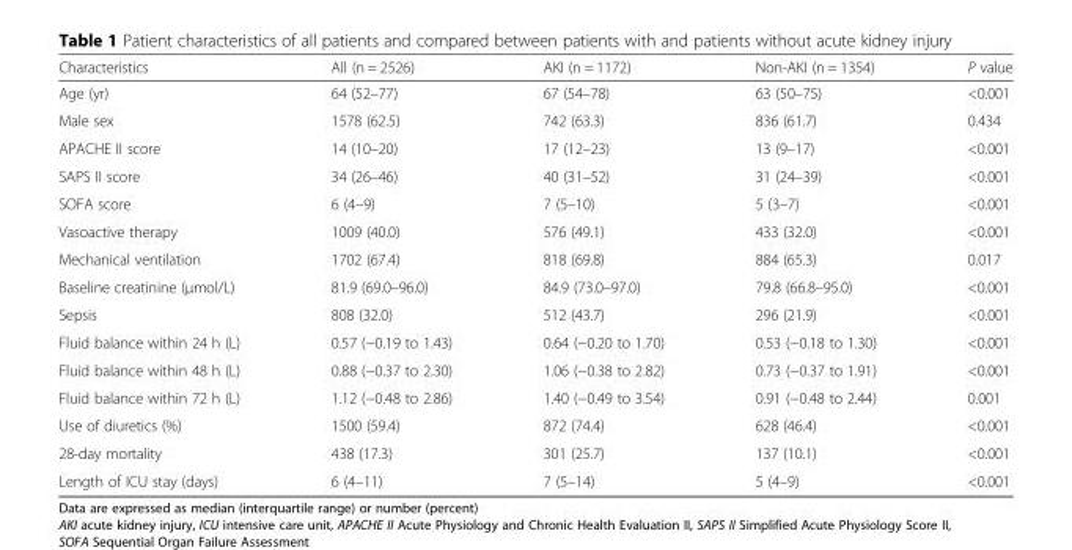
<table><thead><tr><td>Characteristics</td><td>All (n = 2526)</td><td>AKI (n = 1172)</td><td>Non-AKI (n = 1354)</td><td>P value</td></tr></thead><tbody><tr><td>Age (yr)</td><td>64 (52–77)</td><td>67 (54–78)</td><td>63 (50–75)</td><td>&lt;0.001</td></tr><tr><td>Male sex</td><td>1578 (62.5)</td><td>742 (63.3)</td><td>836 (61.7)</td><td>0.434</td></tr><tr><td>APACHE II score</td><td>14 (10–20)</td><td>17 (12–23)</td><td>13 (9–17)</td><td>&lt;0.001</td></tr><tr><td>SAPS II score</td><td>34 (26–46)</td><td>40 (31–52)</td><td>31 (24–39)</td><td>&lt;0.001</td></tr><tr><td>SOFA score</td><td>6 (4–9)</td><td>7 (5–10)</td><td>5 (3–7)</td><td>&lt;0.001</td></tr><tr><td>Vasoactive therapy</td><td>1009 (40.0)</td><td>576 (49.1)</td><td>433 (32.0)</td><td>&lt;0.001</td></tr><tr><td>Mechanical ventilation</td><td>1702 (67.4)</td><td>818 (69.8)</td><td>884 (65.3)</td><td>0.017</td></tr><tr><td>Baseline creatinine (μmol/L)</td><td>81.9 (69.0–96.0)</td><td>84.9 (73.0–97.0)</td><td>79.8 (66.8–95.0)</td><td>&lt;0.001</td></tr><tr><td>Sepsis</td><td>808 (32.0)</td><td>512 (43.7)</td><td>296 (21.9)</td><td>&lt;0.001</td></tr><tr><td>Fluid balance within 24 h (L)</td><td>0.57 (−0.19 to 1.43)</td><td>0.64 (−0.20 to 1.70)</td><td>0.53 (−0.18 to 1.30)</td><td>&lt;0.001</td></tr><tr><td>Fluid balance within 48 h (L)</td><td>0.88 (−0.37 to 2.30)</td><td>1.06 (−0.38 to 2.82)</td><td>0.73 (−0.37 to 1.91)</td><td>&lt;0.001</td></tr><tr><td>Fluid balance within 72 h (L)</td><td>1.12 (−0.48 to 2.86)</td><td>1.40 (−0.49 to 3.54)</td><td>0.91 (−0.48 to 2.44)</td><td>0.001</td></tr><tr><td>Use of diuretics (%)</td><td>1500 (59.4)</td><td>872 (74.4)</td><td>628 (46.4)</td><td>&lt;0.001</td></tr><tr><td>28-day mortality</td><td>438 (17.3)</td><td>301 (25.7)</td><td>137 (10.1)</td><td>&lt;0.001</td></tr><tr><td>Length of ICU stay (days)</td><td>6 (4–11)</td><td>7 (5–14)</td><td>5 (4–9)</td><td>&lt;0.001</td></tr></tbody></table>